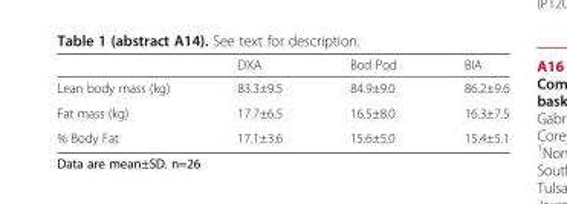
<table><thead><tr><td></td><td>DXA</td><td>Bod Pod</td><td>BIA</td></tr></thead><tbody><tr><td>Lean body mass (kg)</td><td>83.3±9.5</td><td>84.9±9.0</td><td>86.2±9.6</td></tr><tr><td>Fat mass (kg)</td><td>17.7±6.5</td><td>16.5±8.0</td><td>16.3±7.5</td></tr><tr><td>% Body Fat</td><td>17.1±3.6</td><td>15.6±5.0</td><td>15.4±5.1</td></tr></tbody></table>